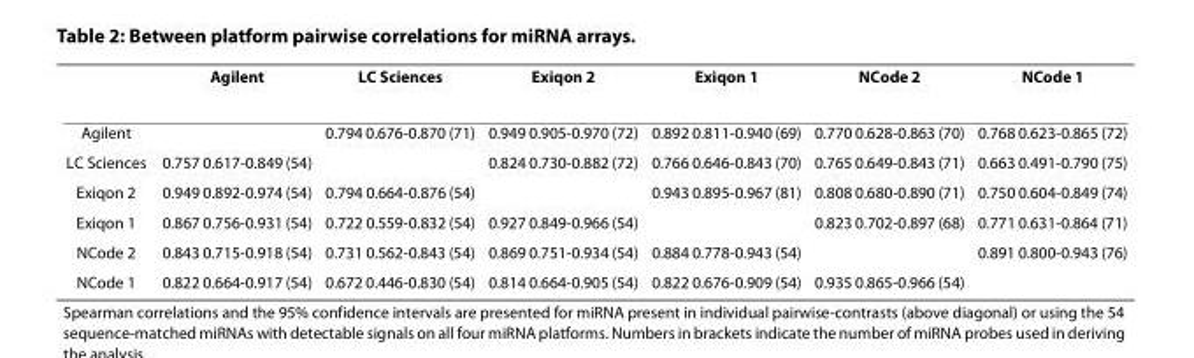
<table><thead><tr><td></td><td>Agilent</td><td>LC Sciences</td><td>Exiqon 2</td><td>Exiqon 1</td><td>NCode 2</td><td>NCode 1</td></tr></thead><tbody><tr><td>Agilent</td><td></td><td>0.794 0.676-0.870 (71)</td><td>0.949 0.905-0.970 (72)</td><td>0.892 0.811-0.940 (69)</td><td>0.770 0.628-0.863 (70)</td><td>0.768 0.623-0.865 (72)</td></tr><tr><td>LC Sciences</td><td>0.757 0.617-0.849 (54)</td><td></td><td>0.824 0.730-0.882 (72)</td><td>0.766 0.646-0.843 (70)</td><td>0.765 0.649-0.843 (71)</td><td>0.663 0.491-0.790 (75)</td></tr><tr><td>Exiqon 2</td><td>0.949 0.892-0.974 (54)</td><td>0.794 0.664-0.876 (54)</td><td></td><td>0.943 0.895-0.967 (81)</td><td>0.808 0.680-0.890 (71)</td><td>0.750 0.604-0.849 (74)</td></tr><tr><td>Exiqon 1</td><td>0.867 0.756-0.931 (54)</td><td>0.722 0.559-0.832 (54)</td><td>0.927 0.849-0.966 (54)</td><td></td><td>0.823 0.702-0.897 (68)</td><td>0.771 0.631-0.864 (71)</td></tr><tr><td>NCode 2</td><td>0.843 0.715-0.918 (54)</td><td>0.731 0.562-0.843 (54)</td><td>0.869 0.751-0.934 (54)</td><td>0.884 0.778-0.943 (54)</td><td></td><td>0.891 0.800-0.943 (76)</td></tr><tr><td>NCode 1</td><td>0.822 0.664-0.917 (54)</td><td>0.672 0.446-0.830 (54)</td><td>0.814 0.664-0.905 (54)</td><td>0.822 0.676-0.909 (54)</td><td>0.935 0.865-0.966 (54)</td><td></td></tr></tbody></table>